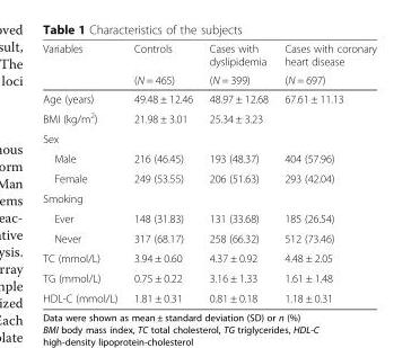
<table><thead><tr><td rowspan="2">Variables</td><td rowspan="2">Controls (N = 465)</td><td rowspan="2">Cases with dyslipidemia (N = 399)</td><td rowspan="2">Cases with coronary heart disease (N = 697)</td></tr><tr></tr></thead><tbody><tr><td>Age (years)</td><td>49.48 ± 12.46</td><td>48.97 ± 12.68</td><td>67.61 ± 11.13</td></tr><tr><td>BMI (kg/m<sup>2</sup>)</td><td>21.98 ± 3.01</td><td>25.34 ± 3.23</td><td></td></tr><tr><td colspan="4">Sex</td></tr><tr><td>Male</td><td>216 (46.45)</td><td>193 (48.37)</td><td>404 (57.96)</td></tr><tr><td>Female</td><td>249 (53.55)</td><td>206 (51.63)</td><td>293 (42.04)</td></tr><tr><td colspan="4">Smoking</td></tr><tr><td>Ever</td><td>148 (31.83)</td><td>131 (33.68)</td><td>185 (26.54)</td></tr><tr><td>Never</td><td>317 (68.17)</td><td>258 (66.32)</td><td>512 (73.46)</td></tr><tr><td>TC (mmol/L)</td><td>3.94 ± 0.60</td><td>4.37 ± 0.92</td><td>4.48 ± 2.05</td></tr><tr><td>TG (mmol/L)</td><td>0.75 ± 0.22</td><td>3.16 ± 1.33</td><td>1.61 ± 1.48</td></tr><tr><td>HDL-C (mmol/L)</td><td>1.81 ± 0.31</td><td>0.81 ± 0.18</td><td>1.18 ± 0.31</td></tr></tbody></table>